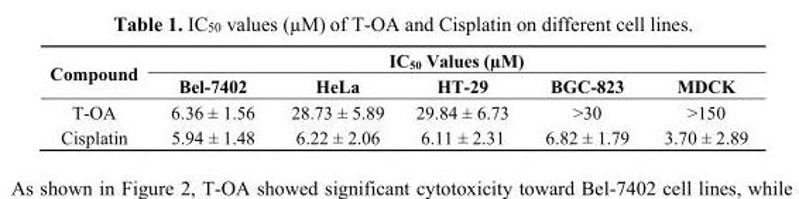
<table><thead><tr><td rowspan="2">Compound</td><td colspan="5">IC<sub>50</sub> Values (µM)</td></tr><tr><td>Bel-7402</td><td>HeLa</td><td>HT-29</td><td>BGC-823</td><td>MDCK</td></tr></thead><tbody><tr><td>T-OA</td><td>6.36 ± 1.56</td><td>28.73 ± 5.89</td><td>29.84 ± 6.73</td><td>&gt;30</td><td>&gt;150</td></tr><tr><td>Cisplatin</td><td>5.94 ± 1.48</td><td>6.22 ± 2.06</td><td>6.11 ± 2.31</td><td>6.82 ± 1.79</td><td>3.70 ± 2.89</td></tr></tbody></table>